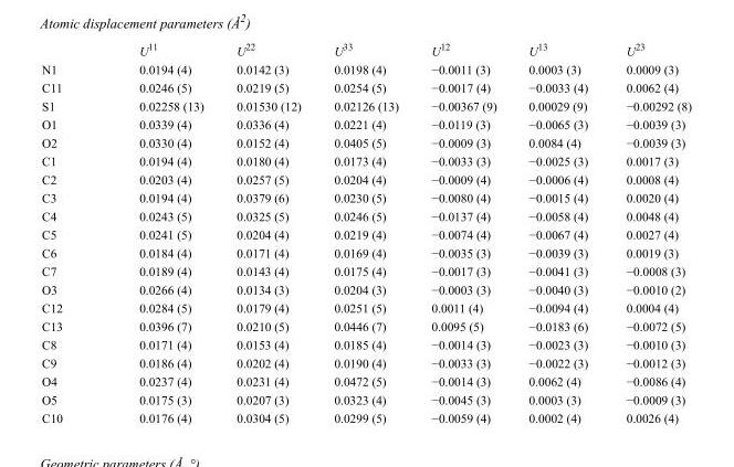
<table><thead><tr><td></td><td>U<sup>11</sup></td><td>U<sup>22</sup></td><td>U<sup>33</sup></td><td>U<sup>12</sup></td><td>U<sup>13</sup></td><td>U<sup>23</sup></td></tr></thead><tbody><tr><td>N1</td><td>0.0194 (4)</td><td>0.0142 (3)</td><td>0.0198 (4)</td><td>−0.0011 (3)</td><td>0.0003 (3)</td><td>0.0009 (3)</td></tr><tr><td>C11</td><td>0.0246 (5)</td><td>0.0219 (5)</td><td>0.0254 (5)</td><td>−0.0017 (4)</td><td>−0.0033 (4)</td><td>0.0062 (4)</td></tr><tr><td>S1</td><td>0.02258 (13)</td><td>0.01530 (12)</td><td>0.02126 (13)</td><td>−0.00367 (9)</td><td>0.00029 (9)</td><td>−0.00292 (8)</td></tr><tr><td>O1</td><td>0.0339 (4)</td><td>0.0336 (4)</td><td>0.0221 (4)</td><td>−0.0119 (3)</td><td>−0.0065 (3)</td><td>−0.0039 (3)</td></tr><tr><td>O2</td><td>0.0330 (4)</td><td>0.0152 (4)</td><td>0.0405 (5)</td><td>−0.0009 (3)</td><td>0.0084 (4)</td><td>−0.0039 (3)</td></tr><tr><td>C1</td><td>0.0194 (4)</td><td>0.0180 (4)</td><td>0.0173 (4)</td><td>−0.0033 (3)</td><td>−0.0025 (3)</td><td>0.0017 (3)</td></tr><tr><td>C2</td><td>0.0203 (4)</td><td>0.0257 (5)</td><td>0.0204 (4)</td><td>−0.0009 (4)</td><td>−0.0006 (4)</td><td>0.0008 (4)</td></tr><tr><td>C3</td><td>0.0194 (4)</td><td>0.0379 (6)</td><td>0.0230 (5)</td><td>−0.0080 (4)</td><td>−0.0015 (4)</td><td>0.0020 (4)</td></tr><tr><td>C4</td><td>0.0243 (5)</td><td>0.0325 (5)</td><td>0.0246 (5)</td><td>−0.0137 (4)</td><td>−0.0058 (4)</td><td>0.0048 (4)</td></tr><tr><td>C5</td><td>0.0241 (5)</td><td>0.0204 (4)</td><td>0.0219 (4)</td><td>−0.0074 (4)</td><td>−0.0067 (4)</td><td>0.0027 (4)</td></tr><tr><td>C6</td><td>0.0184 (4)</td><td>0.0171 (4)</td><td>0.0169 (4)</td><td>−0.0035 (3)</td><td>−0.0039 (3)</td><td>0.0019 (3)</td></tr><tr><td>C7</td><td>0.0189 (4)</td><td>0.0143 (4)</td><td>0.0175 (4)</td><td>−0.0017 (3)</td><td>−0.0041 (3)</td><td>−0.0008 (3)</td></tr><tr><td>O3</td><td>0.0266 (4)</td><td>0.0134 (3)</td><td>0.0204 (3)</td><td>−0.0003 (3)</td><td>−0.0040 (3)</td><td>−0.0010 (2)</td></tr><tr><td>C12</td><td>0.0284 (5)</td><td>0.0179 (4)</td><td>0.0251 (5)</td><td>0.0011 (4)</td><td>−0.0094 (4)</td><td>0.0004 (4)</td></tr><tr><td>C13</td><td>0.0396 (7)</td><td>0.0210 (5)</td><td>0.0446 (7)</td><td>0.0095 (5)</td><td>−0.0183 (6)</td><td>−0.0072 (5)</td></tr><tr><td>C8</td><td>0.0171 (4)</td><td>0.0153 (4)</td><td>0.0185 (4)</td><td>−0.0014 (3)</td><td>−0.0023 (3)</td><td>−0.0010 (3)</td></tr><tr><td>C9</td><td>0.0186 (4)</td><td>0.0202 (4)</td><td>0.0190 (4)</td><td>−0.0033 (3)</td><td>−0.0022 (3)</td><td>−0.0012 (3)</td></tr><tr><td>O4</td><td>0.0237 (4)</td><td>0.0231 (4)</td><td>0.0472 (5)</td><td>−0.0014 (3)</td><td>0.0062 (4)</td><td>−0.0086 (4)</td></tr><tr><td>O5</td><td>0.0175 (3)</td><td>0.0207 (3)</td><td>0.0323 (4)</td><td>−0.0045 (3)</td><td>0.0003 (3)</td><td>−0.0009 (3)</td></tr><tr><td>C10</td><td>0.0176 (4)</td><td>0.0304 (5)</td><td>0.0299 (5)</td><td>−0.0059 (4)</td><td>0.0002 (4)</td><td>0.0026 (4)</td></tr></tbody></table>